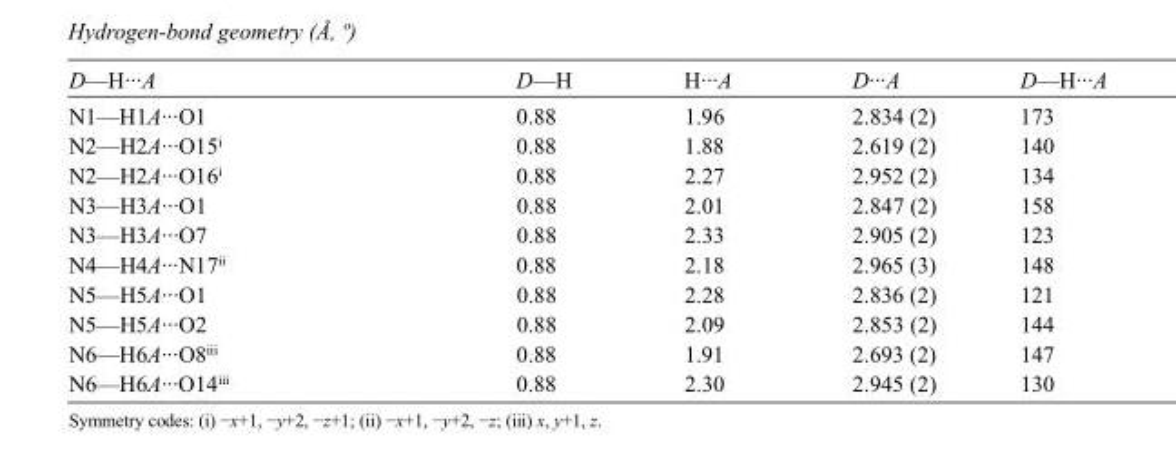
<table><tbody><tr><td>D—H···A</td><td>D—H</td><td>H···A</td><td>D···A</td><td>D—H···A</td></tr><tr><td>N1—H1A···O1</td><td>0.88</td><td>1.96</td><td>2.834 (2)</td><td>173</td></tr><tr><td>N2—H2A···O15<sup>i</sup></td><td>0.88</td><td>1.88</td><td>2.619 (2)</td><td>140</td></tr><tr><td>N2—H2A···O16<sup>i</sup></td><td>0.88</td><td>2.27</td><td>2.952 (2)</td><td>134</td></tr><tr><td>N3—H3A···O1</td><td>0.88</td><td>2.01</td><td>2.847 (2)</td><td>158</td></tr><tr><td>N3—H3A···O7</td><td>0.88</td><td>2.33</td><td>2.905 (2)</td><td>123</td></tr><tr><td>N4—H4A···N17<sup>ii</sup></td><td>0.88</td><td>2.18</td><td>2.965 (3)</td><td>148</td></tr><tr><td>N5—H5A···O1</td><td>0.88</td><td>2.28</td><td>2.836 (2)</td><td>121</td></tr><tr><td>N5—H5A···O2</td><td>0.88</td><td>2.09</td><td>2.853 (2)</td><td>144</td></tr><tr><td>N6—H6A···O8<sup>iii</sup></td><td>0.88</td><td>1.91</td><td>2.693 (2)</td><td>147</td></tr><tr><td>N6—H6A···O14<sup>iii</sup></td><td>0.88</td><td>2.30</td><td>2.945 (2)</td><td>130</td></tr></tbody></table>